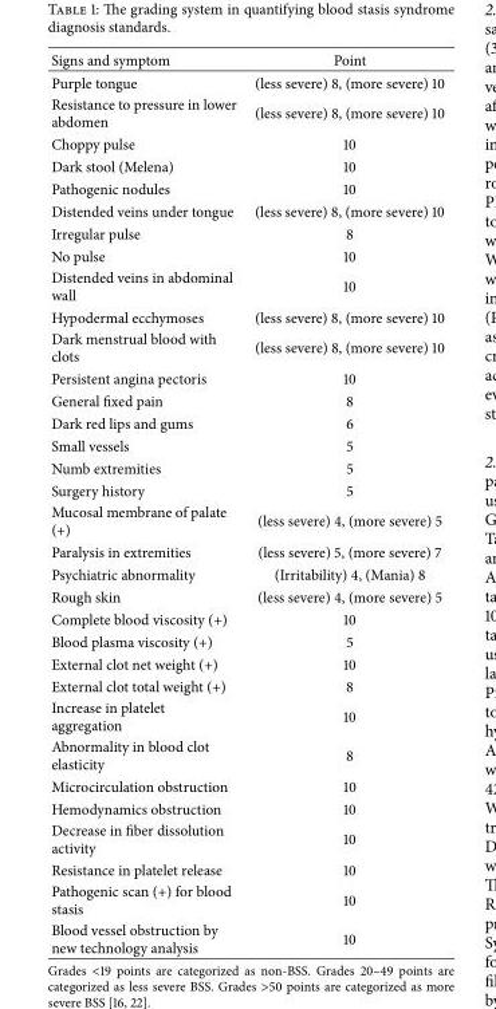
<table><thead><tr><td>Signs and symptom</td><td>Point</td></tr></thead><tbody><tr><td>Purple tongue</td><td>(less severe) 8, (more severe) 10</td></tr><tr><td>Resistance to pressure in lower abdomen</td><td>(less severe) 8, (more severe) 10</td></tr><tr><td>Choppy pulse</td><td>10</td></tr><tr><td>Dark stool (Melena)</td><td>10</td></tr><tr><td>Pathogenic nodules</td><td>10</td></tr><tr><td>Distended veins under tongue</td><td>(less severe) 8, (more severe) 10</td></tr><tr><td>Irregular pulse</td><td>8</td></tr><tr><td>No pulse</td><td>10</td></tr><tr><td>Distended veins in abdominal wall</td><td>10</td></tr><tr><td>Hypodermal ecchymoses</td><td>(less severe) 8, (more severe) 10</td></tr><tr><td>Dark menstrual blood with clots</td><td>(less severe) 8, (more severe) 10</td></tr><tr><td>Persistent angina pectoris</td><td>10</td></tr><tr><td>General fixed pain</td><td>8</td></tr><tr><td>Dark red lips and gums</td><td>6</td></tr><tr><td>Small vessels</td><td>5</td></tr><tr><td>Numb extremities</td><td>5</td></tr><tr><td>Surgery history</td><td>5</td></tr><tr><td>Mucosal membrane of palate (+)</td><td>(less severe) 4, (more severe) 5</td></tr><tr><td>Paralysis in extremities</td><td>(less severe) 5, (more severe) 7</td></tr><tr><td>Psychiatric abnormality</td><td>(Irritability) 4, (Mania) 8</td></tr><tr><td>Rough skin</td><td>(less severe) 4, (more severe) 5</td></tr><tr><td>Complete blood viscosity (+)</td><td>10</td></tr><tr><td>Blood plasma viscosity (+)</td><td>5</td></tr><tr><td>External clot net weight (+)</td><td>10</td></tr><tr><td>External clot total weight (+)</td><td>8</td></tr><tr><td>Increase in platelet aggregation</td><td>10</td></tr><tr><td>Abnormality in blood clot elasticity</td><td>8</td></tr><tr><td>Microcirculation obstruction</td><td>10</td></tr><tr><td>Hemodynamics obstruction</td><td>10</td></tr><tr><td>Decrease in fiber dissolution activity</td><td>10</td></tr><tr><td>Resistance in platelet release</td><td>10</td></tr><tr><td>Pathogenic scan (+) for blood stasis</td><td>10</td></tr><tr><td>Blood vessel obstruction by new technology analysis</td><td>10</td></tr></tbody></table>